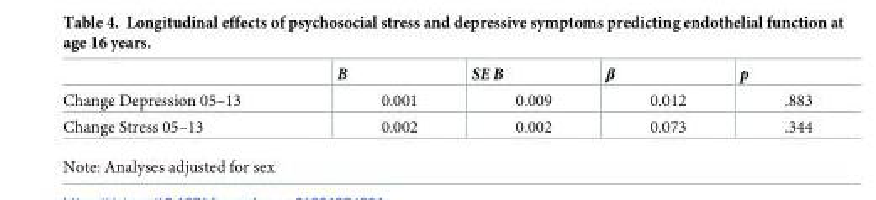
<table><thead><tr><td></td><td>B</td><td>SE B</td><td>β</td><td>p</td></tr></thead><tbody><tr><td>Change Depression 05–13</td><td>0.001</td><td>0.009</td><td>0.012</td><td>.883</td></tr><tr><td>Change Stress 05–13</td><td>0.002</td><td>0.002</td><td>0.073</td><td>.344</td></tr></tbody></table>